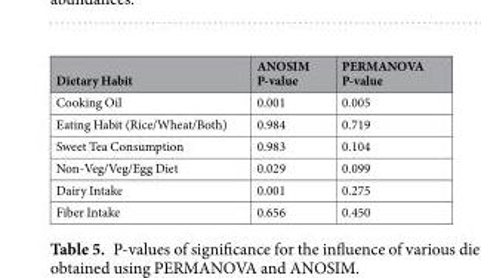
<table><thead><tr><td>Dietary Habit</td><td>ANOSIM P-value</td><td>PERMANOVA P-value</td></tr></thead><tbody><tr><td>Cooking Oil</td><td>0.001</td><td>0.005</td></tr><tr><td>Eating Habit (Rice/Wheat/Both)</td><td>0.984</td><td>0.719</td></tr><tr><td>Sweet Tea Consumption</td><td>0.983</td><td>0.104</td></tr><tr><td>Non-Veg/Veg/Egg Diet</td><td>0.029</td><td>0.099</td></tr><tr><td>Dairy Intake</td><td>0.001</td><td>0.275</td></tr><tr><td>Fiber Intake</td><td>0.656</td><td>0.450</td></tr></tbody></table>